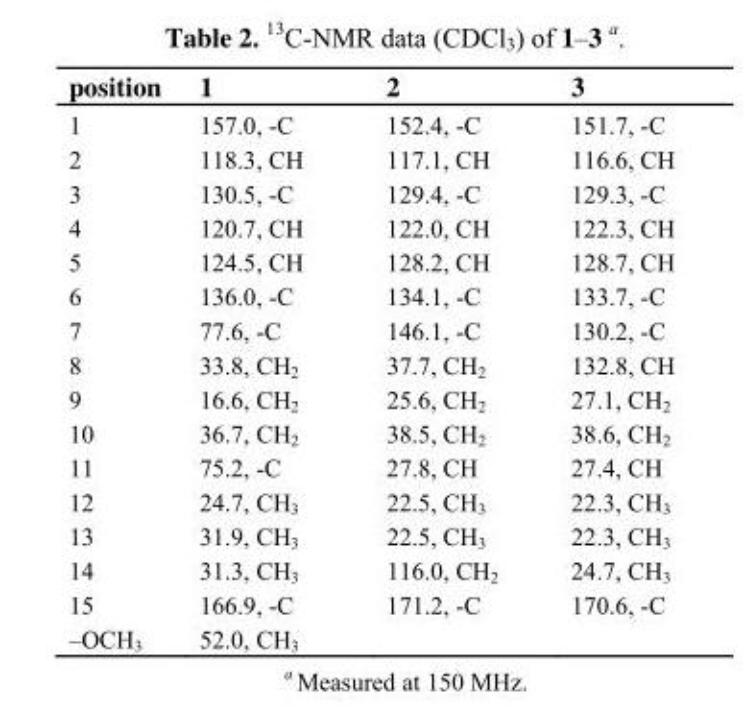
<table><thead><tr><td>position</td><td>1</td><td>2</td><td>3</td></tr></thead><tbody><tr><td>1</td><td>157.0, -C</td><td>152.4, -C</td><td>151.7, -C</td></tr><tr><td>2</td><td>118.3, CH</td><td>117.1, CH</td><td>116.6, CH</td></tr><tr><td>3</td><td>130.5, -C</td><td>129.4, -C</td><td>129.3, -C</td></tr><tr><td>4</td><td>120.7, CH</td><td>122.0, CH</td><td>122.3, CH</td></tr><tr><td>5</td><td>124.5, CH</td><td>128.2, CH</td><td>128.7, CH</td></tr><tr><td>6</td><td>136.0, -C</td><td>134.1, -C</td><td>133.7, -C</td></tr><tr><td>7</td><td>77.6, -C</td><td>146.1, -C</td><td>130.2, -C</td></tr><tr><td>8</td><td>33.8, CH<sub>2</sub></td><td>37.7, CH<sub>2</sub></td><td>132.8, CH</td></tr><tr><td>9</td><td>16.6, CH<sub>2</sub></td><td>25.6, CH<sub>2</sub></td><td>27.1, CH<sub>2</sub></td></tr><tr><td>10</td><td>36.7, CH<sub>2</sub></td><td>38.5, CH<sub>2</sub></td><td>38.6, CH<sub>2</sub></td></tr><tr><td>11</td><td>75.2, -C</td><td>27.8, CH</td><td>27.4, CH</td></tr><tr><td>12</td><td>24.7, CH<sub>3</sub></td><td>22.5, CH<sub>3</sub></td><td>22.3, CH<sub>3</sub></td></tr><tr><td>13</td><td>31.9, CH<sub>3</sub></td><td>22.5, CH<sub>3</sub></td><td>22.3, CH<sub>3</sub></td></tr><tr><td>14</td><td>31.3, CH<sub>3</sub></td><td>116.0, CH<sub>2</sub></td><td>24.7, CH<sub>3</sub></td></tr><tr><td>15</td><td>166.9, -C</td><td>171.2, -C</td><td>170.6, -C</td></tr><tr><td>–OCH<sub>3</sub></td><td>52.0, CH<sub>3</sub></td><td></td><td></td></tr></tbody></table>